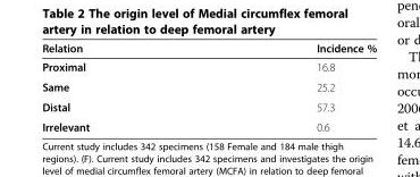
<table><thead><tr><td>Relation</td><td>Incidence %</td></tr></thead><tbody><tr><td>Proximal</td><td>16.8</td></tr><tr><td>Same</td><td>25.2</td></tr><tr><td>Distal</td><td>57.3</td></tr><tr><td>Irrelevant</td><td>0.6</td></tr></tbody></table>